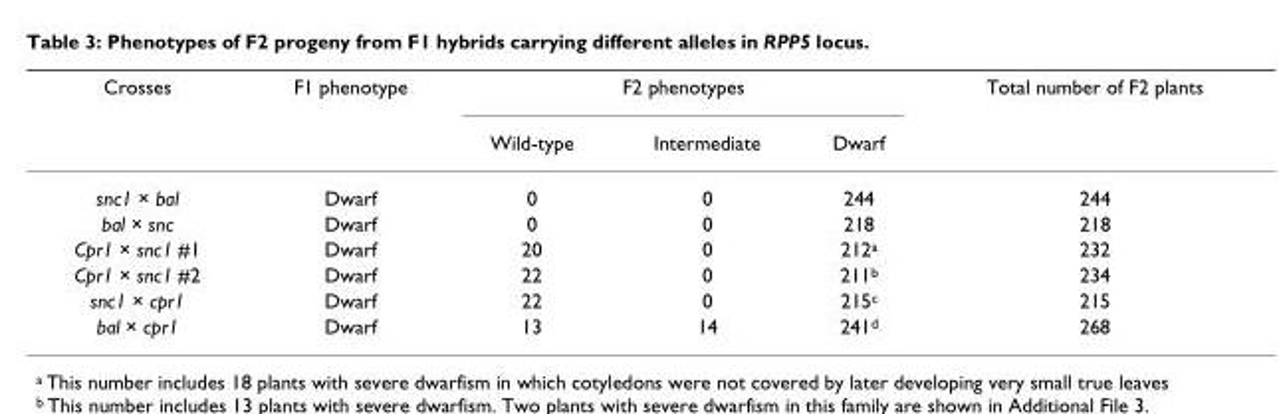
<table><thead><tr><td rowspan="2">Crosses</td><td rowspan="2">F1 phenotype</td><td colspan="3">F2 phenotypes</td><td rowspan="2">Total number of F2 plants</td></tr><tr><td>Wild-type</td><td>Intermediate</td><td>Dwarf</td></tr></thead><tbody><tr><td>snc1 × bal</td><td>Dwarf</td><td>0</td><td>0</td><td>244</td><td>244</td></tr><tr><td>bal × snc</td><td>Dwarf</td><td>0</td><td>0</td><td>218</td><td>218</td></tr><tr><td>Cpr1 × snc1 #1</td><td>Dwarf</td><td>20</td><td>0</td><td>212<sup>a</sup></td><td>232</td></tr><tr><td>Cpr1 × snc1 #2</td><td>Dwarf</td><td>22</td><td>0</td><td>211<sup>b</sup></td><td>234</td></tr><tr><td>snc1 × cpr1</td><td>Dwarf</td><td>22</td><td>0</td><td>215<sup>c</sup></td><td>215</td></tr><tr><td>bal × cpr1</td><td>Dwarf</td><td>13</td><td>14</td><td>241<sup>d</sup></td><td>268</td></tr></tbody></table>